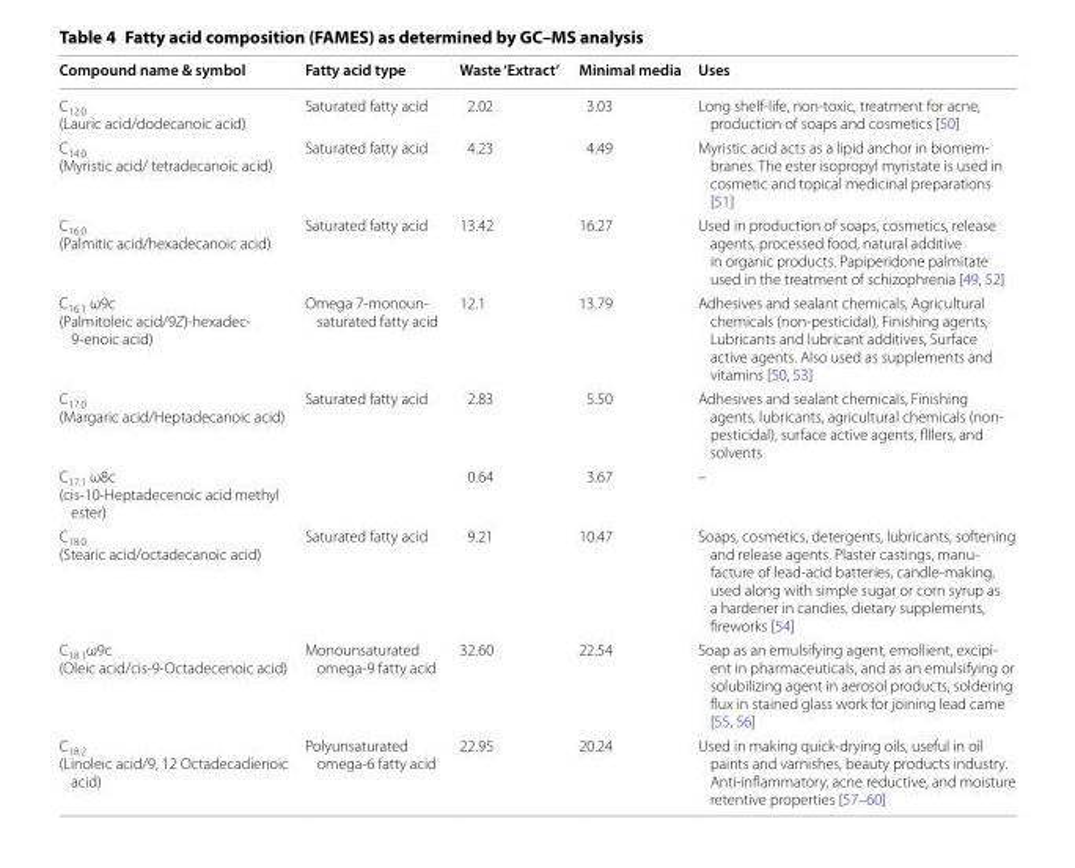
<table><thead><tr><td>Compound name &amp; symbol</td><td>Fatty acid type</td><td>Waste ‘Extract’</td><td>Minimal media</td><td>Uses</td></tr></thead><tbody><tr><td>C<sub>12.0</sub> (Lauric acid/dodecanoic acid)</td><td>Saturated fatty acid</td><td>2.02</td><td>3.03</td><td>Long shelf-life, non-toxic, treatment for acne, production of soaps and cosmetics [50]</td></tr><tr><td>C<sub>14.0</sub> (Myristic acid/ tetradecanoic acid)</td><td>Saturated fatty acid</td><td>4.23</td><td>4.49</td><td>Myristic acid acts as a lipid anchor in biomem- branes. The ester isopropyl myristate is used in cosmetic and topical medicinal preparations [51]</td></tr><tr><td>C<sub>16.0</sub> (Palmitic acid/hexadecanoic acid)</td><td>Saturated fatty acid</td><td>13.42</td><td>16.27</td><td>Used in production of soaps, cosmetics, release agents, processed food, natural additive in organic products. Papiperidone palmitate used in the treatment of schizophrenia [49, 52]</td></tr><tr><td>C<sub>16.1</sub> ω9c (Palmitoleic acid/9Z)-hexadec- 9-enoic acid)</td><td>Omega 7-monoun- saturated fatty acid</td><td>12.1</td><td>13.79</td><td>Adhesives and sealant chemicals, Agricultural chemicals (non-pesticidal), Finishing agents, Lubricants and lubricant additives, Surface active agents. Also used as supplements and vitamins [50, 53]</td></tr><tr><td>C<sub>17.0</sub> (Margaric acid/Heptadecanoic acid)</td><td>Saturated fatty acid</td><td>2.83</td><td>5.50</td><td>Adhesives and sealant chemicals, Finishing agents, lubricants, agricultural chemicals (non- pesticidal), surface active agents, flllers, and solvents</td></tr><tr><td>C<sub>17.1</sub> ω8c (cis-10-Heptadecenoic acid methyl ester)</td><td></td><td>0.64</td><td>3.67</td><td>–</td></tr><tr><td>C<sub>18.0</sub> (Stearic acid/octadecanoic acid)</td><td>Saturated fatty acid</td><td>9.21</td><td>10.47</td><td>Soaps, cosmetics, detergents, lubricants, softening and release agents. Plaster castings, manu- facture of lead-acid batteries, candle-making, used along with simple sugar or corn syrup as a hardener in candies, dietary supplements, fireworks [54]</td></tr><tr><td>C<sub>18.1</sub>ω9c (Oleic acid/cis-9-Octadecenoic acid)</td><td>Monounsaturated omega-9 fatty acid</td><td>32.60</td><td>22.54</td><td>Soap as an emulsifying agent, emollient, excipi- ent in pharmaceuticals, and as an emulsifying or solubilizing agent in aerosol products, soldering flux in stained glass work for joining lead came [55, 56]</td></tr><tr><td>C<sub>18.2</sub> (Linoleic acid/9, 12 Octadecadienoic acid)</td><td>Polyunsaturated omega-6 fatty acid</td><td>22.95</td><td>20.24</td><td>Used in making quick-drying oils, useful in oil paints and varnishes, beauty products industry. Anti-inflammatory, acne reductive, and moisture retentive properties [57–60]</td></tr></tbody></table>